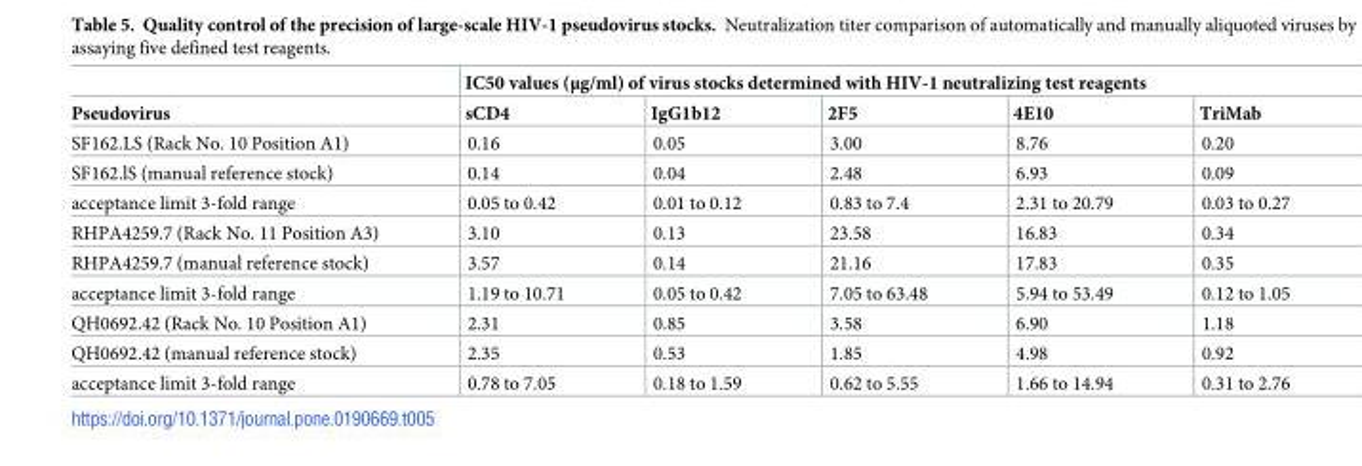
<table><thead><tr><td rowspan="2">Pseudovirus</td><td colspan="5">IC50 values (μg/ml) of virus stocks determined with HIV-1 neutralizing test reagents</td></tr><tr><td>sCD4</td><td>IgG1b12</td><td>2F5</td><td>4E10</td><td>TriMab</td></tr></thead><tbody><tr><td>SF162.LS (Rack No. 10 Position A1)</td><td>0.16</td><td>0.05</td><td>3.00</td><td>8.76</td><td>0.20</td></tr><tr><td>SF162.lS (manual reference stock)</td><td>0.14</td><td>0.04</td><td>2.48</td><td>6.93</td><td>0.09</td></tr><tr><td>acceptance limit 3-fold range</td><td>0.05 to 0.42</td><td>0.01 to 0.12</td><td>0.83 to 7.4</td><td>2.31 to 20.79</td><td>0.03 to 0.27</td></tr><tr><td>RHPA4259.7 (Rack No. 11 Position A3)</td><td>3.10</td><td>0.13</td><td>23.58</td><td>16.83</td><td>0.34</td></tr><tr><td>RHPA4259.7 (manual reference stock)</td><td>3.57</td><td>0.14</td><td>21.16</td><td>17.83</td><td>0.35</td></tr><tr><td>acceptance limit 3-fold range</td><td>1.19 to 10.71</td><td>0.05 to 0.42</td><td>7.05 to 63.48</td><td>5.94 to 53.49</td><td>0.12 to 1.05</td></tr><tr><td>QH0692.42 (Rack No. 10 Position A1)</td><td>2.31</td><td>0.85</td><td>3.58</td><td>6.90</td><td>1.18</td></tr><tr><td>QH0692.42 (manual reference stock)</td><td>2.35</td><td>0.53</td><td>1.85</td><td>4.98</td><td>0.92</td></tr><tr><td>acceptance limit 3-fold range</td><td>0.78 to 7.05</td><td>0.18 to 1.59</td><td>0.62 to 5.55</td><td>1.66 to 14.94</td><td>0.31 to 2.76</td></tr></tbody></table>